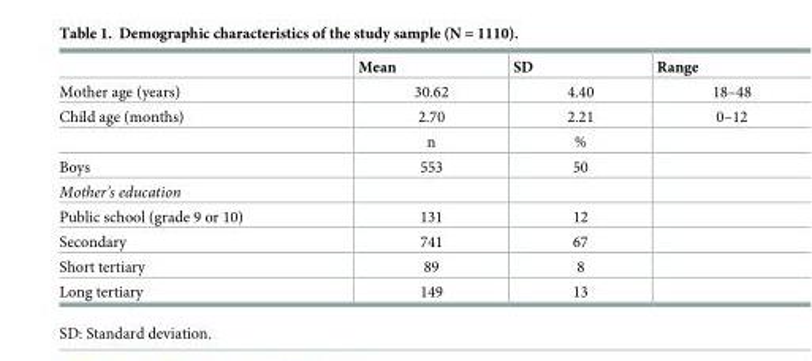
<table><thead><tr><td></td><td>Mean</td><td>SD</td><td>Range</td></tr></thead><tbody><tr><td>Mother age (years)</td><td>30.62</td><td>4.40</td><td>18–48</td></tr><tr><td rowspan="2">Child age (months)</td><td>2.70</td><td>2.21</td><td>0–12</td></tr><tr><td>n</td><td>%</td><td></td></tr><tr><td>Boys</td><td>553</td><td>50</td><td></td></tr><tr><td colspan="4">Mother’s education</td></tr><tr><td>Public school (grade 9 or 10)</td><td>131</td><td>12</td><td></td></tr><tr><td>Secondary</td><td>741</td><td>67</td><td></td></tr><tr><td>Short tertiary</td><td>89</td><td>8</td><td></td></tr><tr><td>Long tertiary</td><td>149</td><td>13</td><td></td></tr></tbody></table>